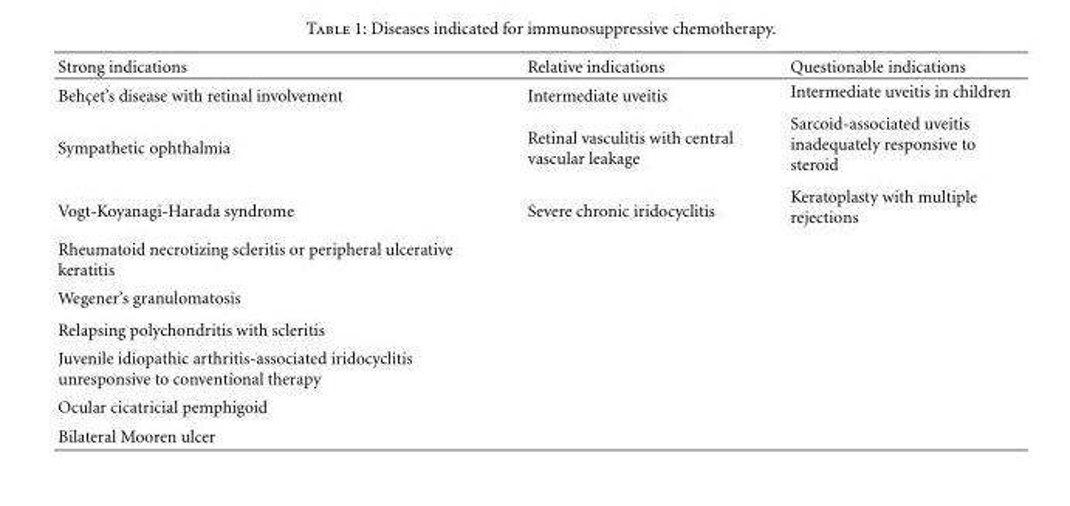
<table><thead><tr><td>Strong indications</td><td>Relative indications</td><td>Questionable indications</td></tr></thead><tbody><tr><td>Behc¸et’s disease with retinal involvement</td><td>Intermediate uveitis</td><td>Intermediate uveitis in children</td></tr><tr><td>Sympathetic ophthalmia</td><td>Retinal vasculitis with central vascular leakage</td><td>Sarcoid-associated uveitis inadequately responsive to steroid</td></tr><tr><td>Vogt-Koyanagi-Harada syndrome</td><td>Severe chronic iridocyclitis</td><td>Keratoplasty with multiple rejections</td></tr><tr><td colspan="3">Rheumatoid necrotizing scleritis or peripheral ulcerative keratitis</td></tr><tr><td colspan="3">Wegener’s granulomatosis</td></tr><tr><td colspan="3">Relapsing polychondritis with scleritis</td></tr><tr><td colspan="3">Juvenile idiopathic arthritis-associated iridocyclitis unresponsive to conventional therapy</td></tr><tr><td colspan="3">Ocular cicatricial pemphigoid</td></tr><tr><td>Bilateral Mooren ulcer</td><td></td><td></td></tr></tbody></table>